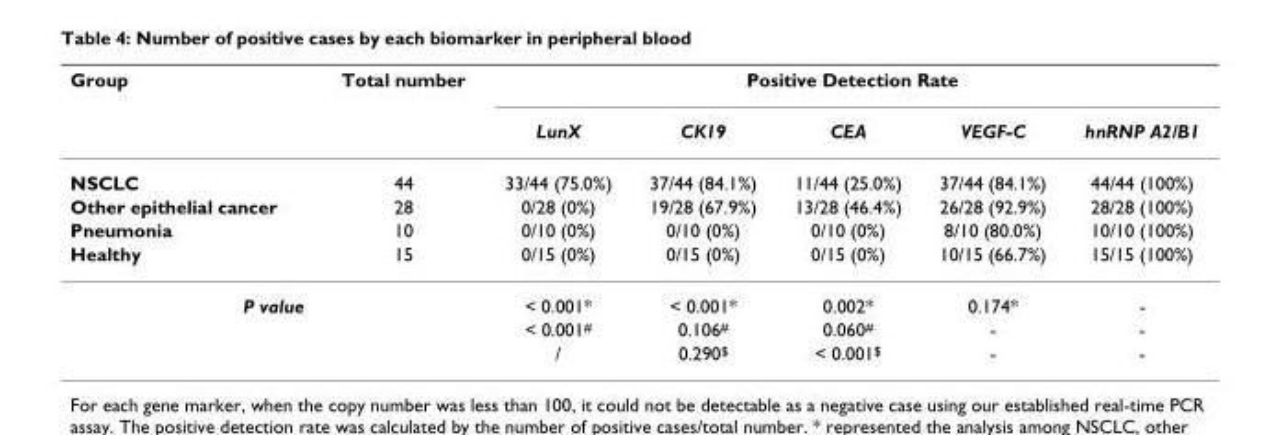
<table><thead><tr><td rowspan="2">Group</td><td rowspan="2">Total number</td><td colspan="5">Positive Detection Rate</td></tr><tr><td>LunX</td><td>CK19</td><td>CEA</td><td>VEGF-C</td><td>hnRNP A2/B1</td></tr></thead><tbody><tr><td>NSCLC</td><td>44</td><td>33/44 (75.0%)</td><td>37/44 (84.1%)</td><td>11/44 (25.0%)</td><td>37/44 (84.1%)</td><td>44/44 (100%)</td></tr><tr><td>Other epithelial cancer</td><td>28</td><td>0/28 (0%)</td><td>19/28 (67.9%)</td><td>13/28 (46.4%)</td><td>26/28 (92.9%)</td><td>28/28 (100%)</td></tr><tr><td>Pneumonia</td><td>10</td><td>0/10 (0%)</td><td>0/10 (0%)</td><td>0/10 (0%)</td><td>8/10 (80.0%)</td><td>10/10 (100%)</td></tr><tr><td>Healthy</td><td>15</td><td>0/15 (0%)</td><td>0/15 (0%)</td><td>0/15 (0%)</td><td>10/15 (66.7%)</td><td>15/15 (100%)</td></tr><tr><td colspan="2">P value</td><td>&lt; 0.001*</td><td>&lt; 0.001*</td><td>0.002*</td><td>0.174*</td><td>-</td></tr><tr><td></td><td></td><td>&lt; 0.001<sup>#</sup></td><td>0.106<sup>#</sup></td><td>0.060<sup>#</sup></td><td>-</td><td>-</td></tr><tr><td></td><td></td><td>/</td><td>0.290<sup>$</sup></td><td>&lt; 0.001<sup>$</sup></td><td>-</td><td>-</td></tr></tbody></table>